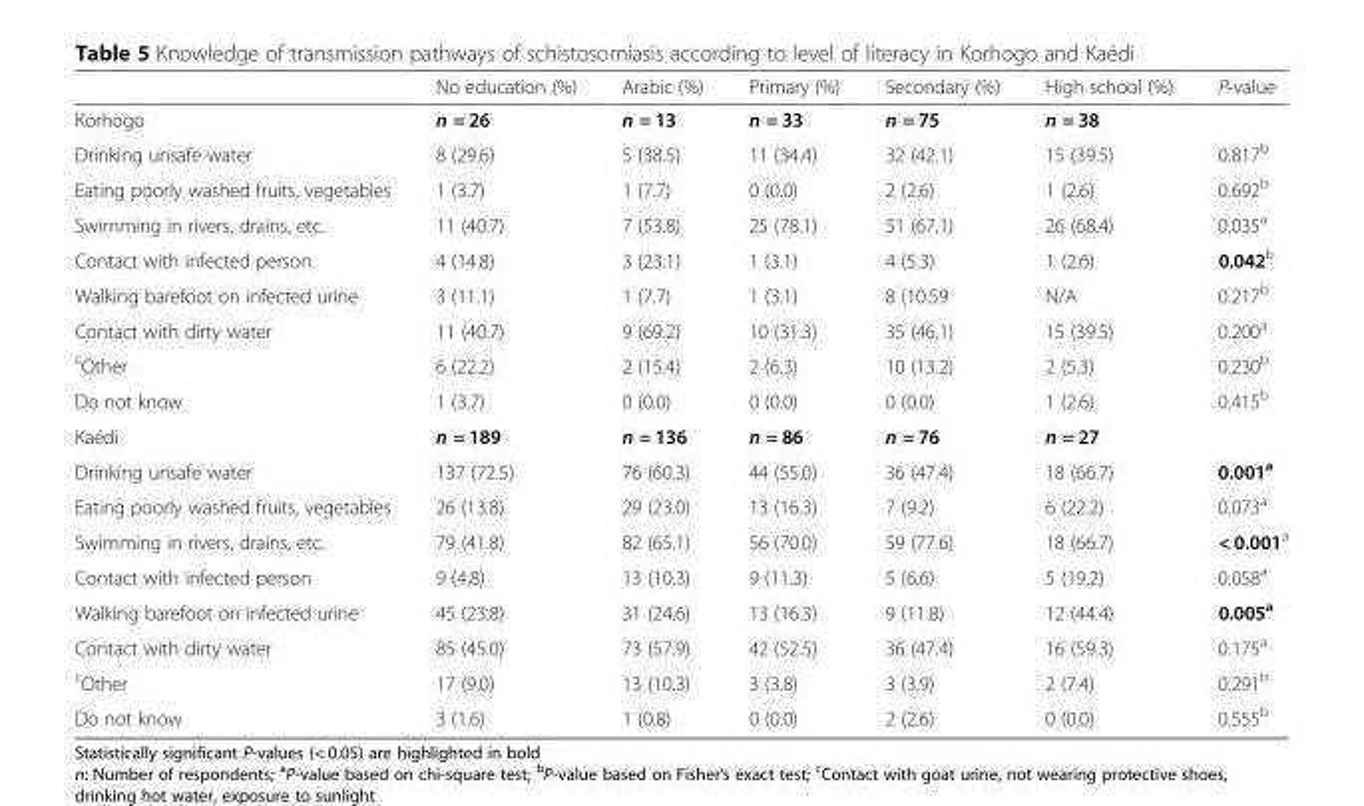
<table><thead><tr><td></td><td>No education (%)</td><td>Arabic (%)</td><td>Primary (%)</td><td>Secondary (%)</td><td>High school (%)</td><td>P-value</td></tr></thead><tbody><tr><td>Korhogo</td><td>n = 26</td><td>n = 13</td><td>n = 33</td><td>n = 75</td><td>n = 38</td><td></td></tr><tr><td>Drinking unsafe water</td><td>8 (29.6)</td><td>5 (38.5)</td><td>11 (34.4)</td><td>32 (42.1)</td><td>15 (39.5)</td><td>0.817<sup>b</sup></td></tr><tr><td>Eating poorly washed fruits, vegetables</td><td>1 (3.7)</td><td>1 (7.7)</td><td>0 (0.0)</td><td>2 (2.6)</td><td>1 (2.6)</td><td>0.692<sup>b</sup></td></tr><tr><td>Swimming in rivers, drains, etc.</td><td>11 (40.7)</td><td>7 (53.8)</td><td>25 (78.1)</td><td>51 (67.1)</td><td>26 (68.4)</td><td>0.035<sup>a</sup></td></tr><tr><td>Contact with infected person</td><td>4 (14.8)</td><td>3 (23.1)</td><td>1 (3.1)</td><td>4 (5.3)</td><td>1 (2.6)</td><td>0.042<sup>b</sup></td></tr><tr><td>Walking barefoot on infected urine</td><td>3 (11.1)</td><td>1 (7.7)</td><td>1 (3.1)</td><td>8 (10.59</td><td>N/A</td><td>0.217<sup>b</sup></td></tr><tr><td>Contact with dirty water</td><td>11 (40.7)</td><td>9 (69.2)</td><td>10 (31.3)</td><td>35 (46.1)</td><td>15 (39.5)</td><td>0.200<sup>a</sup></td></tr><tr><td><sup>c</sup>Other</td><td>6 (22.2)</td><td>2 (15.4)</td><td>2 (6.3)</td><td>10 (13.2)</td><td>2 (5.3)</td><td>0.230<sup>b</sup></td></tr><tr><td>Do not know</td><td>1 (3.7)</td><td>0 (0.0)</td><td>0 (0.0)</td><td>0 (0.0)</td><td>1 (2.6)</td><td>0.415<sup>b</sup></td></tr><tr><td>Kaédi</td><td>n = 189</td><td>n = 136</td><td>n = 86</td><td>n = 76</td><td>n = 27</td><td></td></tr><tr><td>Drinking unsafe water</td><td>137 (72.5)</td><td>76 (60.3)</td><td>44 (55.0)</td><td>36 (47.4)</td><td>18 (66.7)</td><td>0.001<sup>a</sup></td></tr><tr><td>Eating poorly washed fruits, vegetables</td><td>26 (13.8)</td><td>29 (23.0)</td><td>13 (16.3)</td><td>7 (9.2)</td><td>6 (22.2)</td><td>0.073<sup>a</sup></td></tr><tr><td>Swimming in rivers, drains, etc.</td><td>79 (41.8)</td><td>82 (65.1)</td><td>56 (70.0)</td><td>59 (77.6)</td><td>18 (66.7)</td><td>&lt; 0.001<sup>a</sup></td></tr><tr><td>Contact with infected person</td><td>9 (4.8)</td><td>13 (10.3)</td><td>9 (11.3)</td><td>5 (6.6)</td><td>5 (19.2)</td><td>0.058<sup>a</sup></td></tr><tr><td>Walking barefoot on infected urine</td><td>45 (23.8)</td><td>31 (24.6)</td><td>13 (16.3)</td><td>9 (11.8)</td><td>12 (44.4)</td><td>0.005<sup>a</sup></td></tr><tr><td>Contact with dirty water</td><td>85 (45.0)</td><td>73 (57.9)</td><td>42 (52.5)</td><td>36 (47.4)</td><td>16 (59.3)</td><td>0.175<sup>a</sup></td></tr><tr><td><sup>c</sup>Other</td><td>17 (9.0)</td><td>13 (10.3)</td><td>3 (3.8)</td><td>3 (3.9)</td><td>2 (7.4)</td><td>0.291<sup>b</sup></td></tr><tr><td>Do not know</td><td>3 (1.6)</td><td>1 (0.8)</td><td>0 (0.0)</td><td>2 (2.6)</td><td>0 (0.0)</td><td>0.555<sup>b</sup></td></tr></tbody></table>